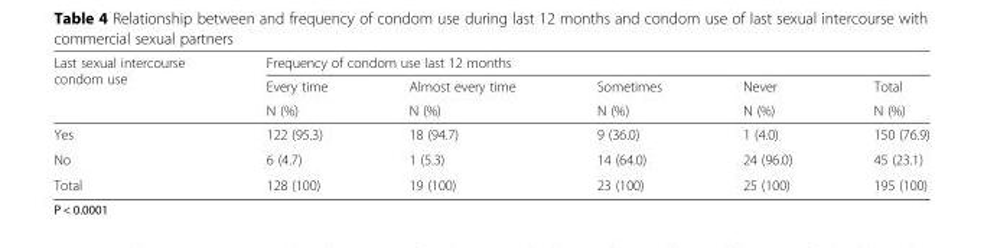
<table><thead><tr><td rowspan="3">Last sexual intercourse condom use</td><td colspan="5">Frequency of condom use last 12 months</td></tr><tr><td rowspan="2">Every time N (%)</td><td rowspan="2">Almost every time N (%)</td><td rowspan="2">Sometimes N (%)</td><td rowspan="2">Never N (%)</td><td rowspan="2">Total N (%)</td></tr><tr></tr></thead><tbody><tr><td>Yes</td><td>122 (95.3)</td><td>18 (94.7)</td><td>9 (36.0)</td><td>1 (4.0)</td><td>150 (76.9)</td></tr><tr><td>No</td><td>6 (4.7)</td><td>1 (5.3)</td><td>14 (64.0)</td><td>24 (96.0)</td><td>45 (23.1)</td></tr><tr><td>Total</td><td>128 (100)</td><td>19 (100)</td><td>23 (100)</td><td>25 (100)</td><td>195 (100)</td></tr></tbody></table>